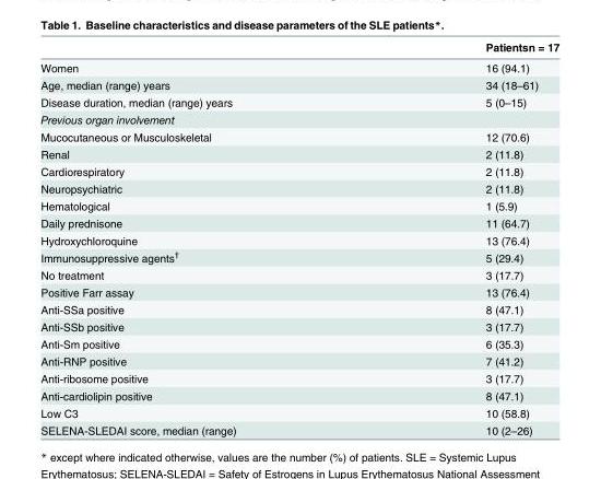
<table><thead><tr><td></td><td>Patientsn = 17</td></tr></thead><tbody><tr><td>Women</td><td>16 (94.1)</td></tr><tr><td>Age, median (range) years</td><td>34 (18–61)</td></tr><tr><td>Disease duration, median (range) years</td><td>5 (0–15)</td></tr><tr><td colspan="2">Previous organ involvement</td></tr><tr><td>Mucocutaneous or Musculoskeletal</td><td>12 (70.6)</td></tr><tr><td>Renal</td><td>2 (11.8)</td></tr><tr><td>Cardiorespiratory</td><td>2 (11.8)</td></tr><tr><td>Neuropsychiatric</td><td>2 (11.8)</td></tr><tr><td>Hematological</td><td>1 (5.9)</td></tr><tr><td>Daily prednisone</td><td>11 (64.7)</td></tr><tr><td>Hydroxychloroquine</td><td>13 (76.4)</td></tr><tr><td>Immunosuppressive agents<sup>†</sup></td><td>5 (29.4)</td></tr><tr><td>No treatment</td><td>3 (17.7)</td></tr><tr><td>Positive Farr assay</td><td>13 (76.4)</td></tr><tr><td>Anti-SSa positive</td><td>8 (47.1)</td></tr><tr><td>Anti-SSb positive</td><td>3 (17.7)</td></tr><tr><td>Anti-Sm positive</td><td>6 (35.3)</td></tr><tr><td>Anti-RNP positive</td><td>7 (41.2)</td></tr><tr><td>Anti-ribosome positive</td><td>3 (17.7)</td></tr><tr><td>Anti-cardiolipin positive</td><td>8 (47.1)</td></tr><tr><td>Low C3</td><td>10 (58.8)</td></tr><tr><td>SELENA-SLEDAI score, median (range)</td><td>10 (2–26)</td></tr></tbody></table>